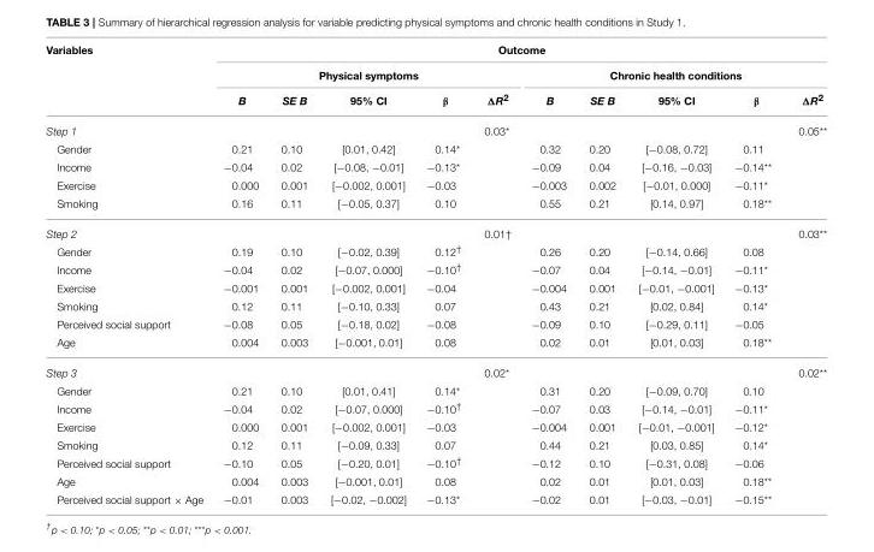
<table><thead><tr><td rowspan="3">Variables</td><td colspan="10">Outcome</td></tr><tr><td colspan="5">Physical symptoms</td><td colspan="5">Chronic health conditions</td></tr><tr><td>B</td><td>SE B</td><td>95% CI</td><td>β</td><td>ΔR<sup>2</sup></td><td>B</td><td>SE B</td><td>95% CI</td><td>β</td><td>ΔR<sup>2</sup></td></tr></thead><tbody><tr><td>Step 1</td><td></td><td></td><td></td><td></td><td>0.03*</td><td></td><td></td><td></td><td></td><td>0.05**</td></tr><tr><td>Gender</td><td>0.21</td><td>0.10</td><td>[0.01, 0.42]</td><td>0.14*</td><td></td><td>0.32</td><td>0.20</td><td>[−0.08, 0.72]</td><td>0.11</td><td></td></tr><tr><td>Income</td><td>−0.04</td><td>0.02</td><td>[−0.08, −0.01]</td><td>−0.13*</td><td></td><td>−0.09</td><td>0.04</td><td>[−0.16, −0.03]</td><td>−0.14**</td><td></td></tr><tr><td>Exercise</td><td>0.000</td><td>0.001</td><td>[−0.002, 0.001]</td><td>−0.03</td><td></td><td>−0.003</td><td>0.002</td><td>[−0.01, 0.000]</td><td>−0.11*</td><td></td></tr><tr><td>Smoking</td><td>0.16</td><td>0.11</td><td>[−0.05, 0.37]</td><td>0.10</td><td></td><td>0.55</td><td>0.21</td><td>[0.14, 0.97]</td><td>0.18**</td><td></td></tr><tr><td>Step 2</td><td></td><td></td><td></td><td></td><td>0.01<sup>†</sup></td><td></td><td></td><td></td><td></td><td>0.03**</td></tr><tr><td>Gender</td><td>0.19</td><td>0.10</td><td>[−0.02, 0.39]</td><td>0.12<sup>†</sup></td><td></td><td>0.26</td><td>0.20</td><td>[−0.14, 0.66]</td><td>0.08</td><td></td></tr><tr><td>Income</td><td>−0.04</td><td>0.02</td><td>[−0.07, 0.000]</td><td>−0.10<sup>†</sup></td><td></td><td>−0.07</td><td>0.04</td><td>[−0.14, −0.01]</td><td>−0.11*</td><td></td></tr><tr><td>Exercise</td><td>−0.001</td><td>0.001</td><td>[−0.002, 0.001]</td><td>−0.04</td><td></td><td>−0.004</td><td>0.001</td><td>[−0.01, −0.001]</td><td>−0.13*</td><td></td></tr><tr><td>Smoking</td><td>0.12</td><td>0.11</td><td>[−0.10, 0.33]</td><td>0.07</td><td></td><td>0.43</td><td>0.21</td><td>[0.02, 0.84]</td><td>0.14*</td><td></td></tr><tr><td>Perceived social support</td><td>−0.08</td><td>0.05</td><td>[−0.18, 0.02]</td><td>−0.08</td><td></td><td>−0.09</td><td>0.10</td><td>[−0.29, 0.11]</td><td>−0.05</td><td></td></tr><tr><td>Age</td><td>0.004</td><td>0.003</td><td>[−0.001, 0.01]</td><td>0.08</td><td></td><td>0.02</td><td>0.01</td><td>[0.01, 0.03]</td><td>0.18**</td><td></td></tr><tr><td>Step 3</td><td></td><td></td><td></td><td></td><td>0.02*</td><td></td><td></td><td></td><td></td><td>0.02**</td></tr><tr><td>Gender</td><td>0.21</td><td>0.10</td><td>[0.01, 0.41]</td><td>0.14*</td><td></td><td>0.31</td><td>0.20</td><td>[−0.09, 0.70]</td><td>0.10</td><td></td></tr><tr><td>Income</td><td>−0.04</td><td>0.02</td><td>[−0.07, 0.000]</td><td>−0.10<sup>†</sup></td><td></td><td>−0.07</td><td>0.03</td><td>[−0.14, −0.01]</td><td>−0.11*</td><td></td></tr><tr><td>Exercise</td><td>0.000</td><td>0.001</td><td>[−0.002, 0.001]</td><td>−0.03</td><td></td><td>−0.004</td><td>0.001</td><td>[−0.01, −0.001]</td><td>−0.12*</td><td></td></tr><tr><td>Smoking</td><td>0.12</td><td>0.11</td><td>[−0.09, 0.33]</td><td>0.07</td><td></td><td>0.44</td><td>0.21</td><td>[0.03, 0.85]</td><td>0.14*</td><td></td></tr><tr><td>Perceived social support</td><td>−0.10</td><td>0.05</td><td>[−0.20, 0.01]</td><td>−0.10<sup>†</sup></td><td></td><td>−0.12</td><td>0.10</td><td>[−0.31, 0.08]</td><td>−0.06</td><td></td></tr><tr><td>Age</td><td>0.004</td><td>0.003</td><td>[−0.001, 0.01]</td><td>0.08</td><td></td><td>0.02</td><td>0.01</td><td>[0.01, 0.03]</td><td>0.18**</td><td></td></tr><tr><td>Perceived social support × Age</td><td>−0.01</td><td>0.003</td><td>[−0.02, −0.002]</td><td>−0.13*</td><td></td><td>−0.02</td><td>0.01</td><td>[−0.03, −0.01]</td><td>−0.15**</td><td></td></tr></tbody></table>